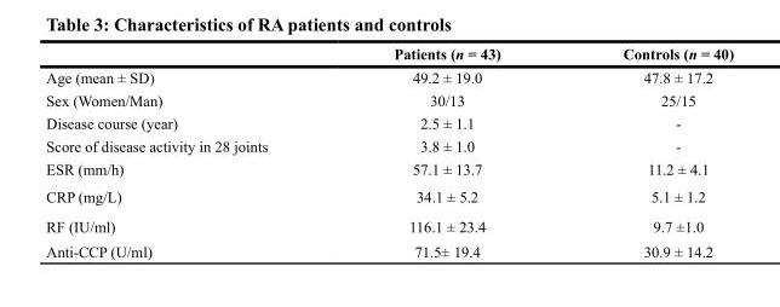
<table><thead><tr><td></td><td>Patients (n = 43)</td><td>Controls (n = 40)</td></tr></thead><tbody><tr><td>Age (mean ± SD)</td><td>49.2 ± 19.0</td><td>47.8 ± 17.2</td></tr><tr><td>Sex (Women/Man)</td><td>30/13</td><td>25/15</td></tr><tr><td>Disease course (year)</td><td>2.5 ± 1.1</td><td>-</td></tr><tr><td>Score of disease activity in 28 joints</td><td>3.8 ± 1.0</td><td>-</td></tr><tr><td>ESR (mm/h)</td><td>57.1 ± 13.7</td><td>11.2 ± 4.1</td></tr><tr><td>CRP (mg/L)</td><td>34.1 ± 5.2</td><td>5.1 ± 1.2</td></tr><tr><td>RF (IU/ml)</td><td>116.1 ± 23.4</td><td>9.7 ±1.0</td></tr><tr><td>Anti-CCP (U/ml)</td><td>71.5± 19.4</td><td>30.9 ± 14.2</td></tr></tbody></table>